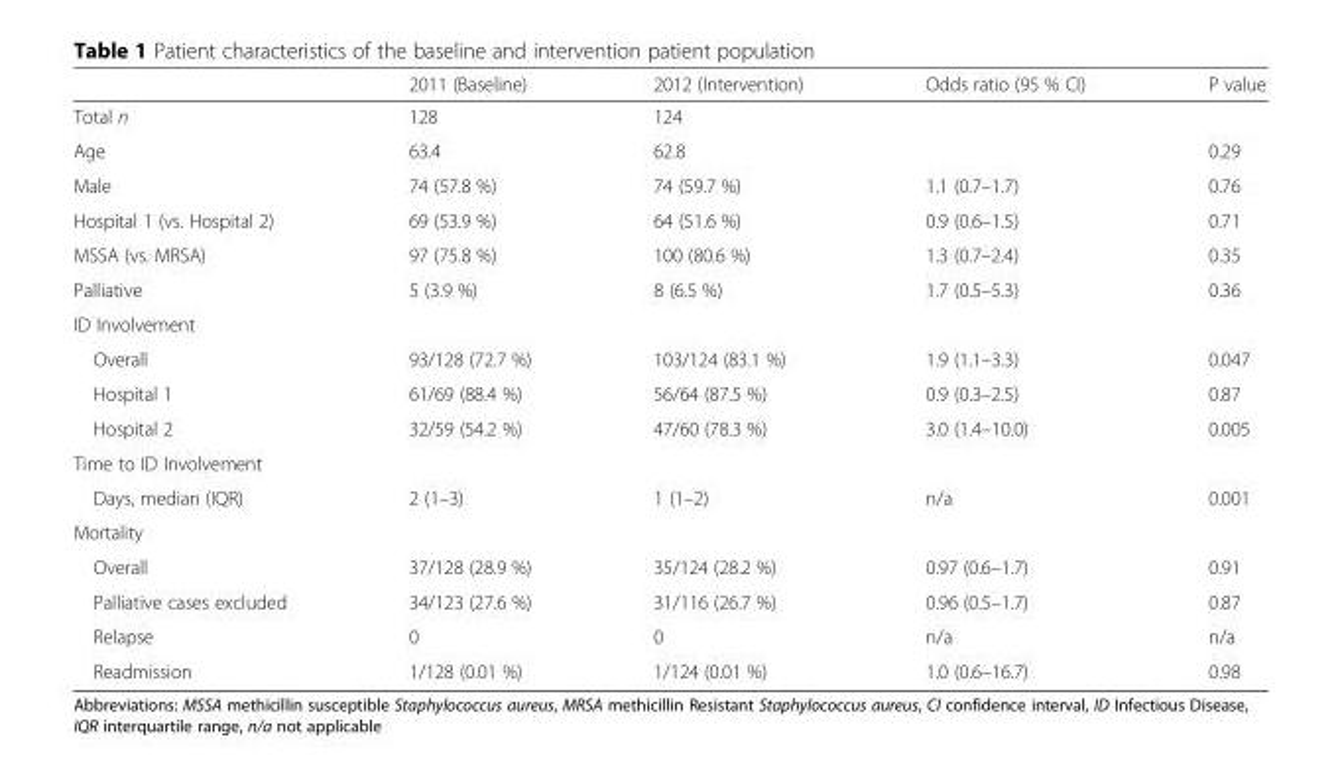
<table><thead><tr><td></td><td>2011 (Baseline)</td><td>2012 (Intervention)</td><td>Odds ratio (95 % CI)</td><td>P value</td></tr></thead><tbody><tr><td>Total n</td><td>128</td><td>124</td><td></td><td></td></tr><tr><td>Age</td><td>63.4</td><td>62.8</td><td></td><td>0.29</td></tr><tr><td>Male</td><td>74 (57.8 %)</td><td>74 (59.7 %)</td><td>1.1 (0.7–1.7)</td><td>0.76</td></tr><tr><td>Hospital 1 (vs. Hospital 2)</td><td>69 (53.9 %)</td><td>64 (51.6 %)</td><td>0.9 (0.6–1.5)</td><td>0.71</td></tr><tr><td>MSSA (vs. MRSA)</td><td>97 (75.8 %)</td><td>100 (80.6 %)</td><td>1.3 (0.7–2.4)</td><td>0.35</td></tr><tr><td>Palliative</td><td>5 (3.9 %)</td><td>8 (6.5 %)</td><td>1.7 (0.5–5.3)</td><td>0.36</td></tr><tr><td colspan="5">ID Involvement</td></tr><tr><td>Overall</td><td>93/128 (72.7 %)</td><td>103/124 (83.1 %)</td><td>1.9 (1.1–3.3)</td><td>0.047</td></tr><tr><td>Hospital 1</td><td>61/69 (88.4 %)</td><td>56/64 (87.5 %)</td><td>0.9 (0.3–2.5)</td><td>0.87</td></tr><tr><td>Hospital 2</td><td>32/59 (54.2 %)</td><td>47/60 (78.3 %)</td><td>3.0 (1.4–10.0)</td><td>0.005</td></tr><tr><td colspan="5">Time to ID Involvement</td></tr><tr><td>Days, median (IQR)</td><td>2 (1–3)</td><td>1 (1–2)</td><td>n/a</td><td>0.001</td></tr><tr><td colspan="5">Mortality</td></tr><tr><td>Overall</td><td>37/128 (28.9 %)</td><td>35/124 (28.2 %)</td><td>0.97 (0.6–1.7)</td><td>0.91</td></tr><tr><td>Palliative cases excluded</td><td>34/123 (27.6 %)</td><td>31/116 (26.7 %)</td><td>0.96 (0.5–1.7)</td><td>0.87</td></tr><tr><td>Relapse</td><td>0</td><td>0</td><td>n/a</td><td>n/a</td></tr><tr><td>Readmission</td><td>1/128 (0.01 %)</td><td>1/124 (0.01 %)</td><td>1.0 (0.6–16.7)</td><td>0.98</td></tr></tbody></table>